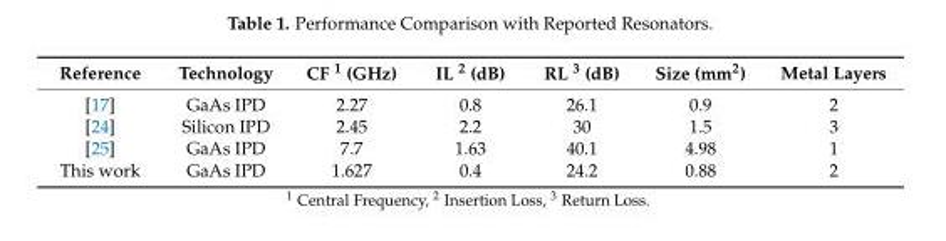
<table><thead><tr><td>Reference</td><td>Technology</td><td>CF <sup>1</sup> (GHz)</td><td>IL <sup>2</sup> (dB)</td><td>RL <sup>3</sup> (dB)</td><td>Size (mm<sup>2</sup>)</td><td>Metal Layers</td></tr></thead><tbody><tr><td>[17]</td><td>GaAs IPD</td><td>2.27</td><td>0.8</td><td>26.1</td><td>0.9</td><td>2</td></tr><tr><td>[24]</td><td>Silicon IPD</td><td>2.45</td><td>2.2</td><td>30</td><td>1.5</td><td>3</td></tr><tr><td>[25]</td><td>GaAs IPD</td><td>7.7</td><td>1.63</td><td>40.1</td><td>4.98</td><td>1</td></tr><tr><td>This work</td><td>GaAs IPD</td><td>1.627</td><td>0.4</td><td>24.2</td><td>0.88</td><td>2</td></tr></tbody></table>